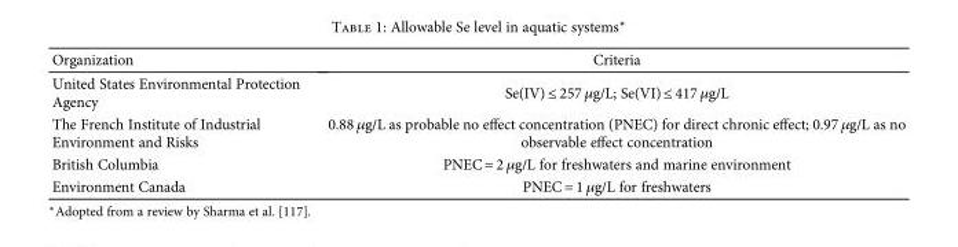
<table><thead><tr><td>Organization</td><td>Criteria</td></tr></thead><tbody><tr><td>United States Environmental Protection Agency</td><td>Se(IV) ≤ 257 μg/L; Se(VI) ≤ 417 μg/L</td></tr><tr><td>The French Institute of Industrial Environment and Risks</td><td>0.88 μg/L as probable no effect concentration (PNEC) for direct chronic effect; 0.97 μg/L as no observable effect concentration</td></tr><tr><td>British Columbia</td><td>PNEC = 2 μg/L for freshwaters and marine environment</td></tr><tr><td>Environment Canada</td><td>PNEC = 1 μg/L for freshwaters</td></tr></tbody></table>